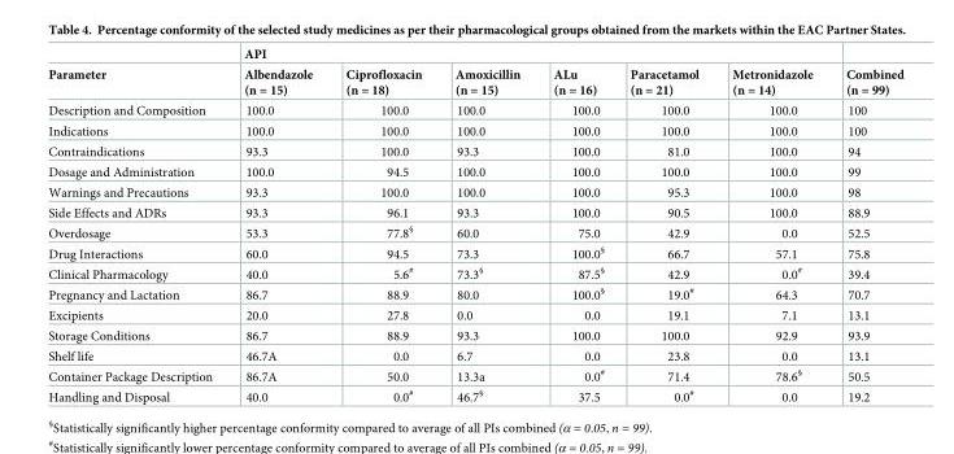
<table><thead><tr><td rowspan="2">Parameter</td><td colspan="6">API</td><td rowspan="2">Combined (n = 99)</td></tr><tr><td>Albendazole (n = 15)</td><td>Ciprofloxacin (n = 18)</td><td>Amoxicillin (n = 15)</td><td>ALu (n = 16)</td><td>Paracetamol (n = 21)</td><td>Metronidazole (n = 14)</td></tr></thead><tbody><tr><td>Description and Composition</td><td>100.0</td><td>100.0</td><td>100.0</td><td>100.0</td><td>100.0</td><td>100.0</td><td>100</td></tr><tr><td>Indications</td><td>100.0</td><td>100.0</td><td>100.0</td><td>100.0</td><td>100.0</td><td>100.0</td><td>100</td></tr><tr><td>Contraindications</td><td>93.3</td><td>100.0</td><td>93.3</td><td>100.0</td><td>81.0</td><td>100.0</td><td>94</td></tr><tr><td>Dosage and Administration</td><td>100.0</td><td>94.5</td><td>100.0</td><td>100.0</td><td>100.0</td><td>100.0</td><td>99</td></tr><tr><td>Warnings and Precautions</td><td>93.3</td><td>100.0</td><td>100.0</td><td>100.0</td><td>95.3</td><td>100.0</td><td>98</td></tr><tr><td>Side Effects and ADRs</td><td>93.3</td><td>96.1</td><td>93.3</td><td>100.0</td><td>90.5</td><td>100.0</td><td>88.9</td></tr><tr><td>Overdosage</td><td>53.3</td><td>77.8<sup>§</sup></td><td>60.0</td><td>75.0</td><td>42.9</td><td>0.0</td><td>52.5</td></tr><tr><td>Drug Interactions</td><td>60.0</td><td>94.5</td><td>73.3</td><td>100.0<sup>§</sup></td><td>66.7</td><td>57.1</td><td>75.8</td></tr><tr><td>Clinical Pharmacology</td><td>40.0</td><td>5.6<sup>#</sup></td><td>73.3<sup>§</sup></td><td>87.5<sup>§</sup></td><td>42.9</td><td>0.0<sup>#</sup></td><td>39.4</td></tr><tr><td>Pregnancy and Lactation</td><td>86.7</td><td>88.9</td><td>80.0</td><td>100.0<sup>§</sup></td><td>19.0<sup>#</sup></td><td>64.3</td><td>70.7</td></tr><tr><td>Excipients</td><td>20.0</td><td>27.8</td><td>0.0</td><td>0.0</td><td>19.1</td><td>7.1</td><td>13.1</td></tr><tr><td>Storage Conditions</td><td>86.7</td><td>88.9</td><td>93.3</td><td>100.0</td><td>100.0</td><td>92.9</td><td>93.9</td></tr><tr><td>Shelf life</td><td>46.7A</td><td>0.0</td><td>6.7</td><td>0.0</td><td>23.8</td><td>0.0</td><td>13.1</td></tr><tr><td>Container Package Description</td><td>86.7A</td><td>50.0</td><td>13.3a</td><td>0.0<sup>#</sup></td><td>71.4</td><td>78.6<sup>§</sup></td><td>50.5</td></tr><tr><td>Handling and Disposal</td><td>40.0</td><td>0.0<sup>#</sup></td><td>46.7<sup>§</sup></td><td>37.5</td><td>0.0<sup>#</sup></td><td>0.0</td><td>19.2</td></tr></tbody></table>